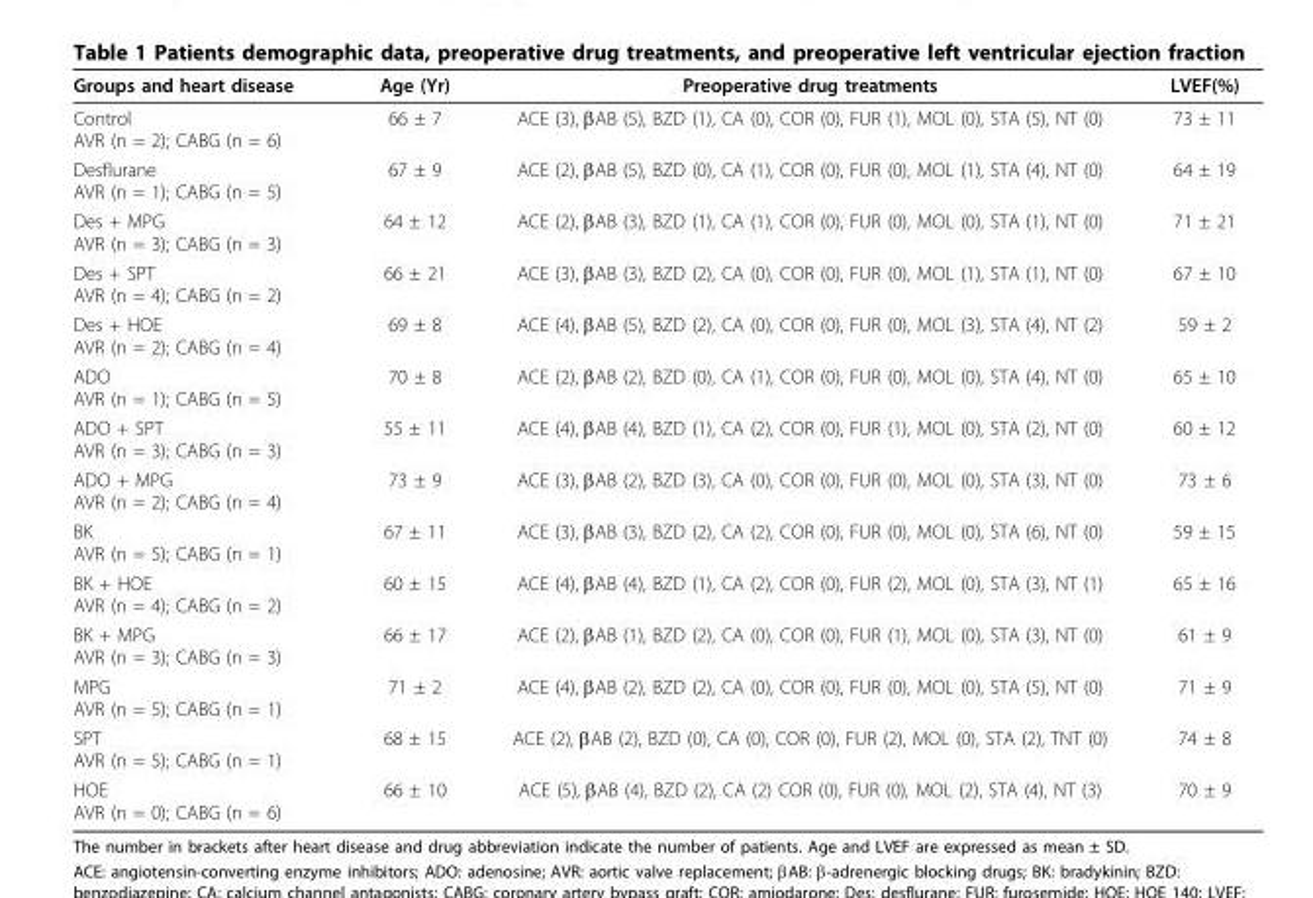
<table><thead><tr><td>Groups and heart disease</td><td>Age (Yr)</td><td>Preoperative drug treatments</td><td>LVEF(%)</td></tr></thead><tbody><tr><td>Control AVR (n = 2); CABG (n = 6)</td><td>66 ± 7</td><td>ACE (3), βAB (5), BZD (1), CA (0), COR (0), FUR (1), MOL (0), STA (5), NT (0)</td><td>73 ± 11</td></tr><tr><td>Desflurane AVR (n = 1); CABG (n = 5)</td><td>67 ± 9</td><td>ACE (2), βAB (5), BZD (0), CA (1), COR (0), FUR (0), MOL (1), STA (4), NT (0)</td><td>64 ± 19</td></tr><tr><td>Des + MPG AVR (n = 3); CABG (n = 3)</td><td>64 ± 12</td><td>ACE (2), βAB (3), BZD (1), CA (1), COR (0), FUR (0), MOL (0), STA (1), NT (0)</td><td>71 ± 21</td></tr><tr><td>Des + SPT AVR (n = 4); CABG (n = 2)</td><td>66 ± 21</td><td>ACE (3), βAB (3), BZD (2), CA (0), COR (0), FUR (0), MOL (1), STA (1), NT (0)</td><td>67 ± 10</td></tr><tr><td>Des + HOE AVR (n = 2); CABG (n = 4)</td><td>69 ± 8</td><td>ACE (4), βAB (5), BZD (2), CA (0), COR (0), FUR (0), MOL (3), STA (4), NT (2)</td><td>59 ± 2</td></tr><tr><td>ADO AVR (n = 1); CABG (n = 5)</td><td>70 ± 8</td><td>ACE (2), βAB (2), BZD (0), CA (1), COR (0), FUR (0), MOL (0), STA (4), NT (0)</td><td>65 ± 10</td></tr><tr><td>ADO + SPT AVR (n = 3); CABG (n = 3)</td><td>55 ± 11</td><td>ACE (4), βAB (4), BZD (1), CA (2), COR (0), FUR (1), MOL (0), STA (2), NT (0)</td><td>60 ± 12</td></tr><tr><td>ADO + MPG AVR (n = 2); CABG (n = 4)</td><td>73 ± 9</td><td>ACE (3), βAB (2), BZD (3), CA (0), COR (0), FUR (0), MOL (0), STA (3), NT (0)</td><td>73 ± 6</td></tr><tr><td>BK AVR (n = 5); CABG (n = 1)</td><td>67 ± 11</td><td>ACE (3), βAB (3), BZD (2), CA (2), COR (0), FUR (0), MOL (0), STA (6), NT (0)</td><td>59 ± 15</td></tr><tr><td>BK + HOE AVR (n = 4); CABG (n = 2)</td><td>60 ± 15</td><td>ACE (4), βAB (4), BZD (1), CA (2), COR (0), FUR (2), MOL (0), STA (3), NT (1)</td><td>65 ± 16</td></tr><tr><td>BK + MPG AVR (n = 3); CABG (n = 3)</td><td>66 ± 17</td><td>ACE (2), βAB (1), BZD (2), CA (0), COR (0), FUR (1), MOL (0), STA (3), NT (0)</td><td>61 ± 9</td></tr><tr><td>MPG AVR (n = 5); CABG (n = 1)</td><td>71 ± 2</td><td>ACE (4), βAB (2), BZD (2), CA (0), COR (0), FUR (0), MOL (0), STA (5), NT (0)</td><td>71 ± 9</td></tr><tr><td>SPT AVR (n = 5); CABG (n = 1)</td><td>68 ± 15</td><td>ACE (2), βAB (2), BZD (0), CA (0), COR (0), FUR (2), MOL (0), STA (2), TNT (0)</td><td>74 ± 8</td></tr><tr><td>HOE AVR (n = 0); CABG (n = 6)</td><td>66 ± 10</td><td>ACE (5), βAB (4), BZD (2), CA (2) COR (0), FUR (0), MOL (2), STA (4), NT (3)</td><td>70 ± 9</td></tr></tbody></table>